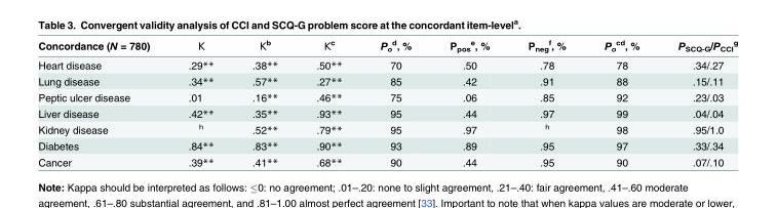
<table><thead><tr><td>Concordance (N = 780)</td><td>Κ</td><td>Κ<sup>b</sup></td><td>Κ<sup>c</sup></td><td>P<sub>o</sub> <sup>d</sup>, %</td><td>P<sub>pos</sub> <sup>e</sup>, %</td><td>P<sub>neg</sub> <sup>f</sup>, %</td><td>P<sub>o</sub> <sup>cd</sup>, %</td><td>P<sub>SCQ-G</sub>/P<sub>CCI</sub> <sup>g</sup></td></tr></thead><tbody><tr><td>Heart disease</td><td>.29**</td><td>.38**</td><td>.50**</td><td>70</td><td>.50</td><td>.78</td><td>78</td><td>.34/.27</td></tr><tr><td>Lung disease</td><td>.34**</td><td>.57**</td><td>.27**</td><td>85</td><td>.42</td><td>.91</td><td>88</td><td>.15/.11</td></tr><tr><td>Peptic ulcer disease</td><td>.01</td><td>.16**</td><td>.46**</td><td>75</td><td>.06</td><td>.85</td><td>92</td><td>.23/.03</td></tr><tr><td>Liver disease</td><td>.42**</td><td>.35**</td><td>.93**</td><td>95</td><td>.44</td><td>.97</td><td>99</td><td>.04/.04</td></tr><tr><td>Kidney disease</td><td><sup>h</sup></td><td>.52**</td><td>.79**</td><td>95</td><td>.97</td><td><sup>h</sup></td><td>98</td><td>.95/1.0</td></tr><tr><td>Diabetes</td><td>.84**</td><td>.83**</td><td>.90**</td><td>93</td><td>.89</td><td>.95</td><td>97</td><td>.33/.34</td></tr><tr><td>Cancer</td><td>.39**</td><td>.41**</td><td>.68**</td><td>90</td><td>.44</td><td>.95</td><td>90</td><td>.07/.10</td></tr></tbody></table>